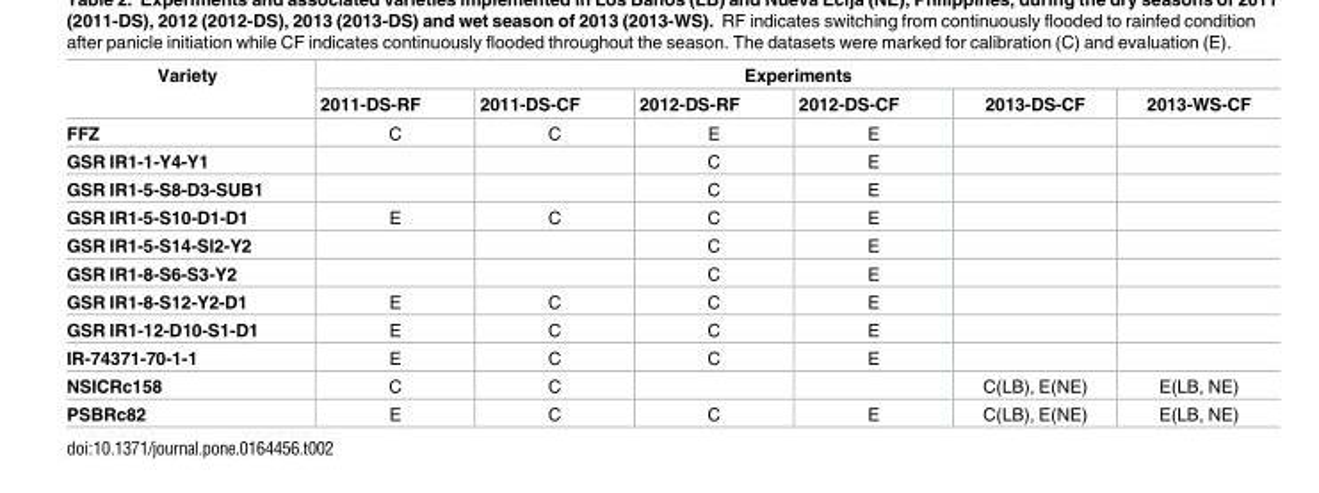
<table><thead><tr><td rowspan="2">Variety</td><td colspan="6">Experiments</td></tr><tr><td>2011-DS-RF</td><td>2011-DS-CF</td><td>2012-DS-RF</td><td>2012-DS-CF</td><td>2013-DS-CF</td><td>2013-WS-CF</td></tr></thead><tbody><tr><td>FFZ</td><td>C</td><td>C</td><td>E</td><td>E</td><td></td><td></td></tr><tr><td>GSR IR1-1-Y4-Y1</td><td></td><td></td><td>C</td><td>E</td><td></td><td></td></tr><tr><td>GSR IR1-5-S8-D3-SUB1</td><td></td><td></td><td>C</td><td>E</td><td></td><td></td></tr><tr><td>GSR IR1-5-S10-D1-D1</td><td>E</td><td>C</td><td>C</td><td>E</td><td></td><td></td></tr><tr><td>GSR IR1-5-S14-Sl2-Y2</td><td></td><td></td><td>C</td><td>E</td><td></td><td></td></tr><tr><td>GSR IR1-8-S6-S3-Y2</td><td></td><td></td><td>C</td><td>E</td><td></td><td></td></tr><tr><td>GSR IR1-8-S12-Y2-D1</td><td>E</td><td>C</td><td>C</td><td>E</td><td></td><td></td></tr><tr><td>GSR IR1-12-D10-S1-D1</td><td>E</td><td>C</td><td>C</td><td>E</td><td></td><td></td></tr><tr><td>IR-74371-70-1-1</td><td>E</td><td>C</td><td>C</td><td>E</td><td></td><td></td></tr><tr><td>NSICRc158</td><td>C</td><td>C</td><td></td><td></td><td>C(LB), E(NE)</td><td>E(LB, NE)</td></tr><tr><td>PSBRc82</td><td>E</td><td>C</td><td>C</td><td>E</td><td>C(LB), E(NE)</td><td>E(LB, NE)</td></tr></tbody></table>